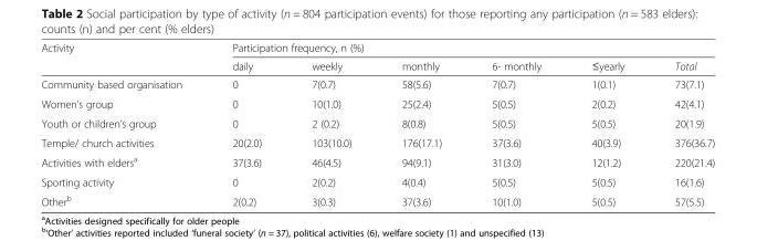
<table><thead><tr><td rowspan="2">Activity</td><td colspan="6">Participation frequency, n (%)</td></tr><tr><td>daily</td><td>weekly</td><td>monthly</td><td>6- monthly</td><td>≤yearly</td><td>Total</td></tr></thead><tbody><tr><td>Community based organisation</td><td>0</td><td>7(0.7)</td><td>58(5.6)</td><td>7(0.7)</td><td>1(0.1)</td><td>73(7.1)</td></tr><tr><td>Women’s group</td><td>0</td><td>10(1.0)</td><td>25(2.4)</td><td>5(0.5)</td><td>2(0.2)</td><td>42(4.1)</td></tr><tr><td>Youth or children’s group</td><td>0</td><td>2 (0.2)</td><td>8(0.8)</td><td>5(0.5)</td><td>5(0.5)</td><td>20(1.9)</td></tr><tr><td>Temple/ church activities</td><td>20(2.0)</td><td>103(10.0)</td><td>176(17.1)</td><td>37(3.6)</td><td>40(3.9)</td><td>376(36.7)</td></tr><tr><td>Activities with elders<sup>a</sup></td><td>37(3.6)</td><td>46(4.5)</td><td>94(9.1)</td><td>31(3.0)</td><td>12(1.2)</td><td>220(21.4)</td></tr><tr><td>Sporting activity</td><td>0</td><td>2(0.2)</td><td>4(0.4)</td><td>5(0.5)</td><td>5(0.5)</td><td>16(1.6)</td></tr><tr><td>Other<sup>b</sup></td><td>2(0.2)</td><td>3(0.3)</td><td>37(3.6)</td><td>10(1.0)</td><td>5(0.5)</td><td>57(5.5)</td></tr></tbody></table>